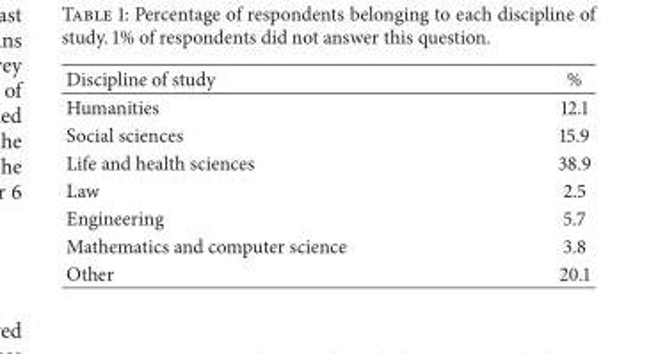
<table><thead><tr><td>Discipline of study</td><td>%</td></tr></thead><tbody><tr><td>Humanities</td><td>12.1</td></tr><tr><td>Social sciences</td><td>15.9</td></tr><tr><td>Life and health sciences</td><td>38.9</td></tr><tr><td>Law</td><td>2.5</td></tr><tr><td>Engineering</td><td>5.7</td></tr><tr><td>Mathematics and computer science</td><td>3.8</td></tr><tr><td>Other</td><td>20.1</td></tr></tbody></table>